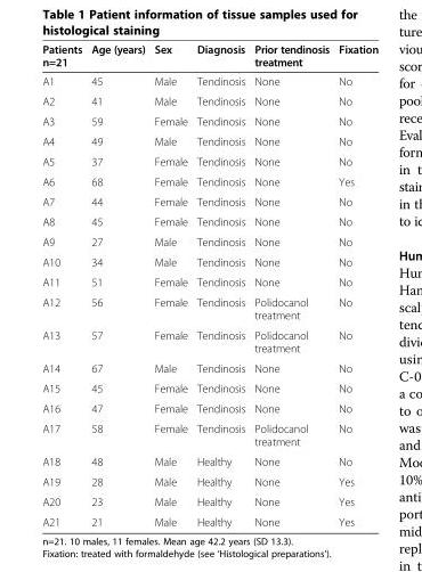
<table><thead><tr><td>Patients n=21</td><td>Age (years)</td><td>Sex</td><td>Diagnosis</td><td>Prior tendinosis treatment</td><td>Fixation</td></tr></thead><tbody><tr><td>A1</td><td>45</td><td>Male</td><td>Tendinosis</td><td>None</td><td>No</td></tr><tr><td>A2</td><td>41</td><td>Male</td><td>Tendinosis</td><td>None</td><td>No</td></tr><tr><td>A3</td><td>59</td><td>Female</td><td>Tendinosis</td><td>None</td><td>No</td></tr><tr><td>A4</td><td>49</td><td>Male</td><td>Tendinosis</td><td>None</td><td>No</td></tr><tr><td>A5</td><td>37</td><td>Female</td><td>Tendinosis</td><td>None</td><td>No</td></tr><tr><td>A6</td><td>68</td><td>Female</td><td>Tendinosis</td><td>None</td><td>Yes</td></tr><tr><td>A7</td><td>44</td><td>Female</td><td>Tendinosis</td><td>None</td><td>No</td></tr><tr><td>A8</td><td>45</td><td>Female</td><td>Tendinosis</td><td>None</td><td>No</td></tr><tr><td>A9</td><td>27</td><td>Male</td><td>Tendinosis</td><td>None</td><td>No</td></tr><tr><td>A10</td><td>34</td><td>Male</td><td>Tendinosis</td><td>None</td><td>No</td></tr><tr><td>A11</td><td>51</td><td>Female</td><td>Tendinosis</td><td>None</td><td>No</td></tr><tr><td>A12</td><td>56</td><td>Female</td><td>Tendinosis</td><td>Polidocanol treatment</td><td>No</td></tr><tr><td>A13</td><td>57</td><td>Female</td><td>Tendinosis</td><td>Polidocanol treatment</td><td>No</td></tr><tr><td>A14</td><td>67</td><td>Male</td><td>Tendinosis</td><td>None</td><td>No</td></tr><tr><td>A15</td><td>45</td><td>Female</td><td>Tendinosis</td><td>None</td><td>No</td></tr><tr><td>A16</td><td>47</td><td>Female</td><td>Tendinosis</td><td>None</td><td>No</td></tr><tr><td>A17</td><td>58</td><td>Female</td><td>Tendinosis</td><td>Polidocanol treatment</td><td>No</td></tr><tr><td>A18</td><td>48</td><td>Male</td><td>Healthy</td><td>None</td><td>No</td></tr><tr><td>A19</td><td>28</td><td>Male</td><td>Healthy</td><td>None</td><td>Yes</td></tr><tr><td>A20</td><td>23</td><td>Male</td><td>Healthy</td><td>None</td><td>Yes</td></tr><tr><td>A21</td><td>21</td><td>Male</td><td>Healthy</td><td>None</td><td>Yes</td></tr></tbody></table>